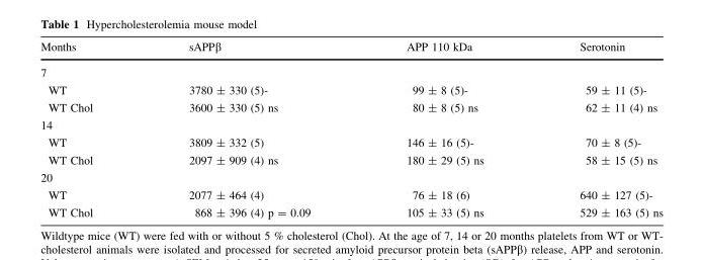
<table><thead><tr><td>Months</td><td>sAPPβ</td><td>APP 110 kDa</td><td>Serotonin</td></tr></thead><tbody><tr><td colspan="4">7</td></tr><tr><td>WT</td><td>3780 ± 330 (5)-</td><td>99 ± 8 (5)-</td><td>59 ± 11 (5)-</td></tr><tr><td>WT Chol</td><td>3600 ± 330 (5) ns</td><td>80 ± 8 (5) ns</td><td>62 ± 11 (4) ns</td></tr><tr><td colspan="4">14</td></tr><tr><td>WT</td><td>3809 ± 332 (5)</td><td>146 ± 16 (5)-</td><td>70 ± 8 (5)-</td></tr><tr><td>WT Chol</td><td>2097 ± 909 (4) ns</td><td>180 ± 29 (5) ns</td><td>58 ± 15 (5) ns</td></tr><tr><td colspan="4">20</td></tr><tr><td>WT</td><td>2077 ± 464 (4)</td><td>76 ± 18 (6)</td><td>640 ± 127 (5)-</td></tr><tr><td>WT Chol</td><td>868 ± 396 (4) p = 0.09</td><td>105 ± 33 (5) ns</td><td>529 ± 163 (5) ns</td></tr></tbody></table>